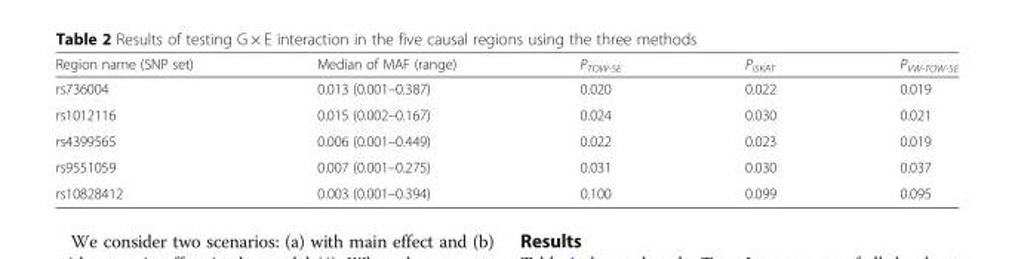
<table><thead><tr><td>Region name (SNP set)</td><td>Median of MAF (range)</td><td>P<sub>TOW-SE</sub></td><td>P<sub>iSKAT</sub></td><td>P<sub>VW-TOW-SE</sub></td></tr></thead><tbody><tr><td>rs736004</td><td>0.013 (0.001–0.387)</td><td>0.020</td><td>0.022</td><td>0.019</td></tr><tr><td>rs1012116</td><td>0.015 (0.002–0.167)</td><td>0.024</td><td>0.030</td><td>0.021</td></tr><tr><td>rs4399565</td><td>0.006 (0.001–0.449)</td><td>0.022</td><td>0.023</td><td>0.019</td></tr><tr><td>rs9551059</td><td>0.007 (0.001–0.275)</td><td>0.031</td><td>0.030</td><td>0.037</td></tr><tr><td>rs10828412</td><td>0.003 (0.001–0.394)</td><td>0.100</td><td>0.099</td><td>0.095</td></tr></tbody></table>